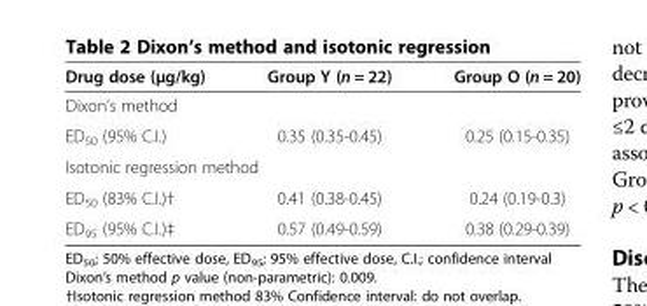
<table><thead><tr><td>Drug dose (μg/kg)</td><td>Group Y (n = 22)</td><td>Group O (n = 20)</td></tr></thead><tbody><tr><td colspan="3">Dixon’s method</td></tr><tr><td>ED<sub>50</sub> (95% C.I.)</td><td>0.35 (0.35-0.45)</td><td>0.25 (0.15-0.35)</td></tr><tr><td colspan="3">Isotonic regression method</td></tr><tr><td>ED<sub>50</sub> (83% C.I.)†</td><td>0.41 (0.38-0.45)</td><td>0.24 (0.19-0.3)</td></tr><tr><td>ED<sub>95</sub> (95% C.I.)‡</td><td>0.57 (0.49-0.59)</td><td>0.38 (0.29-0.39)</td></tr></tbody></table>